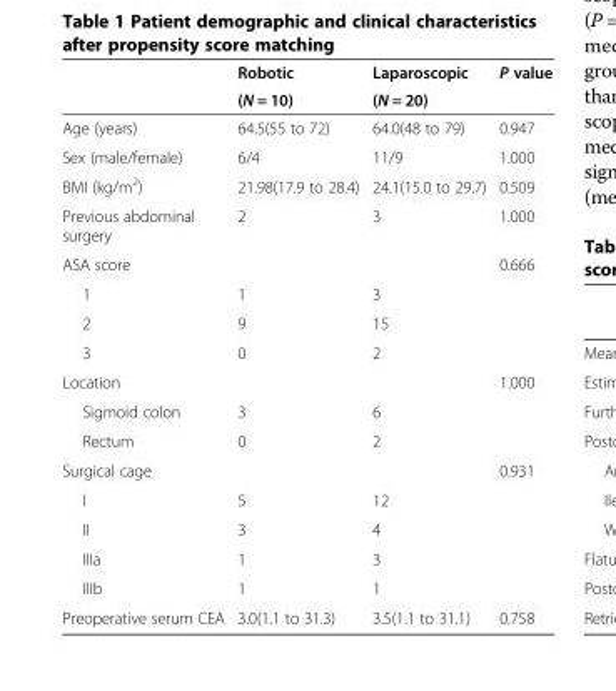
<table><thead><tr><td rowspan="2"></td><td rowspan="2">Robotic (N = 10)</td><td rowspan="2">Laparoscopic (N = 20)</td><td rowspan="2">P value</td></tr><tr></tr></thead><tbody><tr><td>Age (years)</td><td>64.5(55 to 72)</td><td>64.0(48 to 79)</td><td>0.947</td></tr><tr><td>Sex (male/female)</td><td>6/4</td><td>11/9</td><td>1.000</td></tr><tr><td>BMI (kg/m<sup>2</sup>)</td><td>21.98(17.9 to 28.4)</td><td>24.1(15.0 to 29.7)</td><td>0.509</td></tr><tr><td>Previous abdominal surgery</td><td>2</td><td>3</td><td>1.000</td></tr><tr><td>ASA score</td><td></td><td></td><td>0.666</td></tr><tr><td>1</td><td>1</td><td>3</td><td></td></tr><tr><td>2</td><td>9</td><td>15</td><td></td></tr><tr><td>3</td><td>0</td><td>2</td><td></td></tr><tr><td>Location</td><td></td><td></td><td>1.000</td></tr><tr><td>Sigmoid colon</td><td>3</td><td>6</td><td></td></tr><tr><td>Rectum</td><td>0</td><td>2</td><td></td></tr><tr><td>Surgical cage</td><td></td><td></td><td>0.931</td></tr><tr><td>I</td><td>5</td><td>12</td><td></td></tr><tr><td>II</td><td>3</td><td>4</td><td></td></tr><tr><td>IIIa</td><td>1</td><td>3</td><td></td></tr><tr><td>IIIb</td><td>1</td><td>1</td><td></td></tr><tr><td>Preoperative serum CEA</td><td>3.0(1.1 to 31.3)</td><td>3.5(1.1 to 31.1)</td><td>0.758</td></tr></tbody></table>